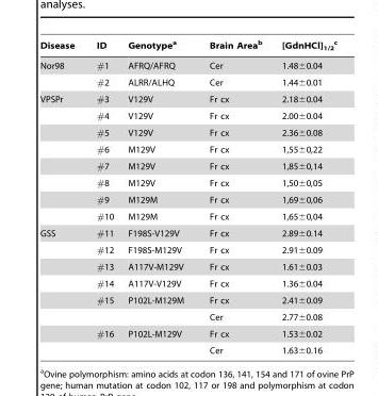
<table><thead><tr><td>Disease</td><td>ID</td><td>Genotype<sup>a</sup></td><td>Brain Area<sup>b</sup></td><td>[GdnHCl]<sub>1/2</sub> c</td></tr></thead><tbody><tr><td rowspan="2">Nor98</td><td>#1</td><td>AFRQ/AFRQ</td><td>Cer</td><td>1.48±0.04</td></tr><tr><td>#2</td><td>ALRR/ALHQ</td><td>Cer</td><td>1.44±0.01</td></tr><tr><td rowspan="8">VPSPr</td><td>#3</td><td>V129V</td><td>Fr cx</td><td>2.18±0.04</td></tr><tr><td>#4</td><td>V129V</td><td>Fr cx</td><td>2.00±0.04</td></tr><tr><td>#5</td><td>V129V</td><td>Fr cx</td><td>2.36±0.08</td></tr><tr><td>#6</td><td>M129V</td><td>Fr cx</td><td>1,55±0,22</td></tr><tr><td>#7</td><td>M129V</td><td>Fr cx</td><td>1,85±0,14</td></tr><tr><td>#8</td><td>M129V</td><td>Fr cx</td><td>1,50±0,05</td></tr><tr><td>#9</td><td>M129M</td><td>Fr cx</td><td>1,69±0,06</td></tr><tr><td>#10</td><td>M129M</td><td>Fr cx</td><td>1,65±0,04</td></tr><tr><td rowspan="8">GSS</td><td>#11</td><td>F198S-V129V</td><td>Fr cx</td><td>2.89±0.14</td></tr><tr><td>#12</td><td>F198S-M129V</td><td>Fr cx</td><td>2.91±0.09</td></tr><tr><td>#13</td><td>A117V-M129V</td><td>Fr cx</td><td>1.61±0.03</td></tr><tr><td>#14</td><td>A117V-V129V</td><td>Fr cx</td><td>1.36±0.04</td></tr><tr><td>#15</td><td>P102L-M129M</td><td>Fr cx</td><td>2.41±0.09</td></tr><tr><td></td><td></td><td>Cer</td><td>2.77±0.08</td></tr><tr><td>#16</td><td>P102L-M129V</td><td>Fr cx</td><td>1.53±0.02</td></tr><tr><td></td><td></td><td>Cer</td><td>1.63±0.16</td></tr></tbody></table>